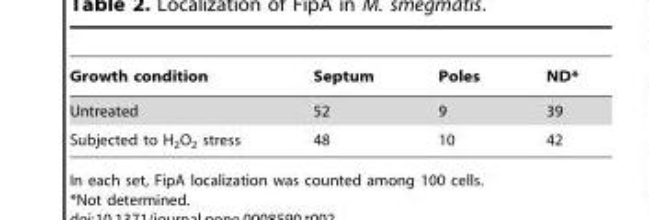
<table><thead><tr><td>Growth condition</td><td>Septum</td><td>Poles</td><td>ND*</td></tr></thead><tbody><tr><td>Untreated</td><td>52</td><td>9</td><td>39</td></tr><tr><td>Subjected to H2O2 stress</td><td>48</td><td>10</td><td>42</td></tr></tbody></table>